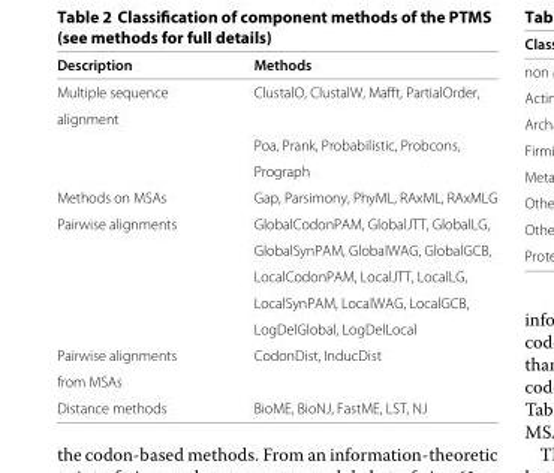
<table><thead><tr><td>Description</td><td>Methods</td></tr></thead><tbody><tr><td>Multiple sequence</td><td>ClustalO, ClustalW, Mafft, PartialOrder,</td></tr><tr><td colspan="2">alignment</td></tr><tr><td></td><td>Poa, Prank, Probabilistic, Probcons,</td></tr><tr><td></td><td>Prograph</td></tr><tr><td>Methods on MSAs</td><td>Gap, Parsimony, PhyML, RAxML, RAxMLG</td></tr><tr><td rowspan="5">Pairwise alignments</td><td>GlobalCodonPAM, GlobalJTT, GlobalLG,</td></tr><tr><td>GlobalSynPAM, GlobalWAG, GlobalGCB,</td></tr><tr><td>LocalCodonPAM, LocalJTT, LocalLG,</td></tr><tr><td>LocalSynPAM, LocalWAG, LocalGCB,</td></tr><tr><td>LogDelGlobal, LogDelLocal</td></tr><tr><td>Pairwise alignments</td><td>CodonDist, InducDist</td></tr><tr><td colspan="2">from MSAs</td></tr><tr><td>Distance methods</td><td>BioME, BioNJ, FastME, LST, NJ</td></tr></tbody></table>